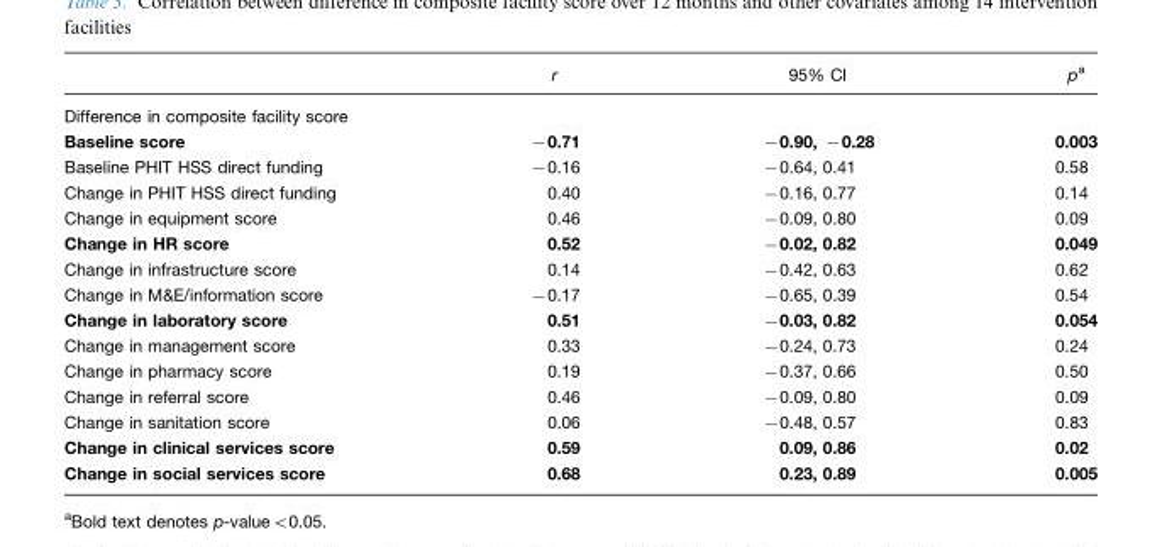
<table><thead><tr><td></td><td>r</td><td>95% CI</td><td>p<sup>a</sup></td></tr></thead><tbody><tr><td colspan="4">Difference in composite facility score</td></tr><tr><td>Baseline score</td><td>−0.71</td><td>−0.90, −0.28</td><td>0.003</td></tr><tr><td>Baseline PHIT HSS direct funding</td><td>−0.16</td><td>−0.64, 0.41</td><td>0.58</td></tr><tr><td>Change in PHIT HSS direct funding</td><td>0.40</td><td>−0.16, 0.77</td><td>0.14</td></tr><tr><td>Change in equipment score</td><td>0.46</td><td>−0.09, 0.80</td><td>0.09</td></tr><tr><td>Change in HR score</td><td>0.52</td><td>−0.02, 0.82</td><td>0.049</td></tr><tr><td>Change in infrastructure score</td><td>0.14</td><td>−0.42, 0.63</td><td>0.62</td></tr><tr><td>Change in M&amp;E/information score</td><td>−0.17</td><td>−0.65, 0.39</td><td>0.54</td></tr><tr><td>Change in laboratory score</td><td>0.51</td><td>−0.03, 0.82</td><td>0.054</td></tr><tr><td>Change in management score</td><td>0.33</td><td>−0.24, 0.73</td><td>0.24</td></tr><tr><td>Change in pharmacy score</td><td>0.19</td><td>−0.37, 0.66</td><td>0.50</td></tr><tr><td>Change in referral score</td><td>0.46</td><td>−0.09, 0.80</td><td>0.09</td></tr><tr><td>Change in sanitation score</td><td>0.06</td><td>−0.48, 0.57</td><td>0.83</td></tr><tr><td>Change in clinical services score</td><td>0.59</td><td>0.09, 0.86</td><td>0.02</td></tr><tr><td>Change in social services score</td><td>0.68</td><td>0.23, 0.89</td><td>0.005</td></tr></tbody></table>